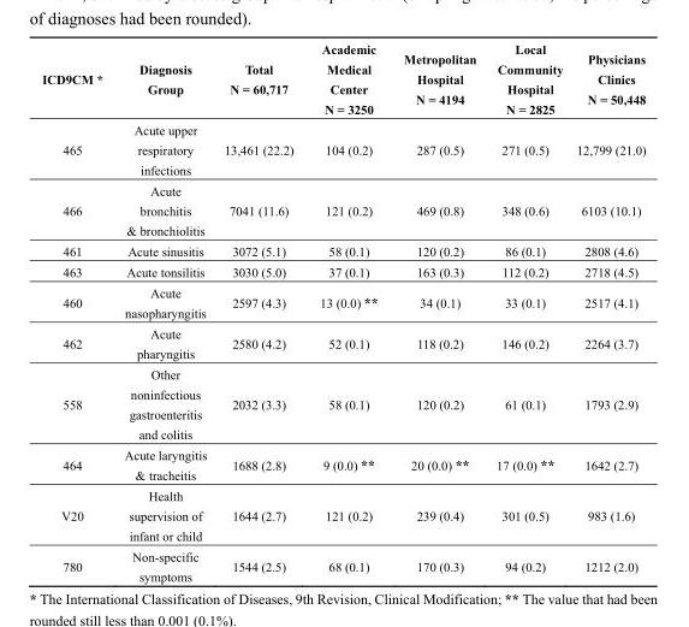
<table><thead><tr><td>ICD9CM *</td><td>Diagnosis Group</td><td>Total N = 60,717</td><td>Academic Medical Center N = 3250</td><td>Metropolitan Hospital N = 4194</td><td>Local Community Hospital N = 2825</td><td>Physicians Clinics N = 50,448</td></tr></thead><tbody><tr><td>465</td><td>Acute upper respiratory infections</td><td>13,461 (22.2)</td><td>104 (0.2)</td><td>287 (0.5)</td><td>271 (0.5)</td><td>12,799 (21.0)</td></tr><tr><td>466</td><td>Acute bronchitis &amp; bronchiolitis</td><td>7041 (11.6)</td><td>121 (0.2)</td><td>469 (0.8)</td><td>348 (0.6)</td><td>6103 (10.1)</td></tr><tr><td>461</td><td>Acute sinusitis</td><td>3072 (5.1)</td><td>58 (0.1)</td><td>120 (0.2)</td><td>86 (0.1)</td><td>2808 (4.6)</td></tr><tr><td>463</td><td>Acute tonsilitis</td><td>3030 (5.0)</td><td>37 (0.1)</td><td>163 (0.3)</td><td>112 (0.2)</td><td>2718 (4.5)</td></tr><tr><td>460</td><td>Acute nasopharyngitis</td><td>2597 (4.3)</td><td>13 (0.0) **</td><td>34 (0.1)</td><td>33 (0.1)</td><td>2517 (4.1)</td></tr><tr><td>462</td><td>Acute pharyngitis</td><td>2580 (4.2)</td><td>52 (0.1)</td><td>118 (0.2)</td><td>146 (0.2)</td><td>2264 (3.7)</td></tr><tr><td>558</td><td>Other noninfectious gastroenteritis and colitis</td><td>2032 (3.3)</td><td>58 (0.1)</td><td>120 (0.2)</td><td>61 (0.1)</td><td>1793 (2.9)</td></tr><tr><td>464</td><td>Acute laryngitis &amp; tracheitis</td><td>1688 (2.8)</td><td>9 (0.0) **</td><td>20 (0.0) **</td><td>17 (0.0) **</td><td>1642 (2.7)</td></tr><tr><td>V20</td><td>Health supervision of infant or child</td><td>1644 (2.7)</td><td>121 (0.2)</td><td>239 (0.4)</td><td>301 (0.5)</td><td>983 (1.6)</td></tr><tr><td>780</td><td>Non-specific symptoms</td><td>1544 (2.5)</td><td>68 (0.1)</td><td>170 (0.3)</td><td>94 (0.2)</td><td>1212 (2.0)</td></tr></tbody></table>